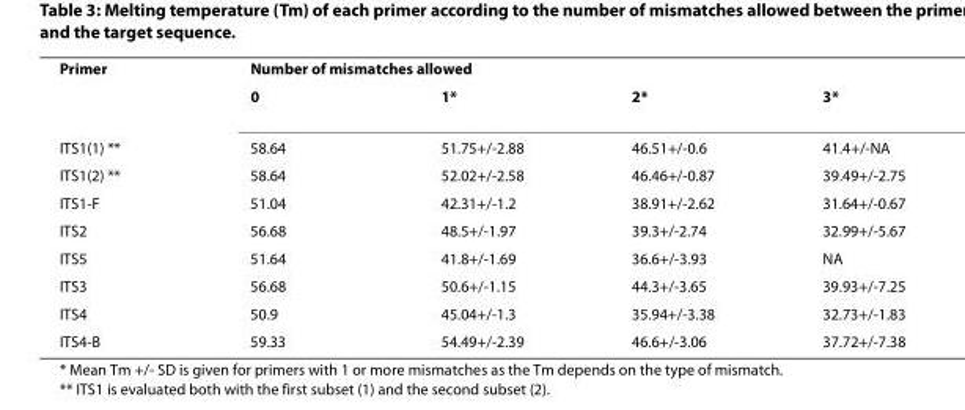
<table><tbody><tr><td rowspan="2">Primer</td><td colspan="4">Number of mismatches allowed</td></tr><tr><td>0</td><td>1*</td><td>2*</td><td>3*</td></tr><tr><td>ITS1(1) **</td><td>58.64</td><td>51.75+/-2.88</td><td>46.51+/-0.6</td><td>41.4+/-NA</td></tr><tr><td>ITS1(2) **</td><td>58.64</td><td>52.02+/-2.58</td><td>46.46+/-0.87</td><td>39.49+/-2.75</td></tr><tr><td>ITS1-F</td><td>51.04</td><td>42.31+/-1.2</td><td>38.91+/-2.62</td><td>31.64+/-0.67</td></tr><tr><td>ITS2</td><td>56.68</td><td>48.5+/-1.97</td><td>39.3+/-2.74</td><td>32.99+/-5.67</td></tr><tr><td>ITS5</td><td>51.64</td><td>41.8+/-1.69</td><td>36.6+/-3.93</td><td>NA</td></tr><tr><td>ITS3</td><td>56.68</td><td>50.6+/-1.15</td><td>44.3+/-3.65</td><td>39.93+/-7.25</td></tr><tr><td>ITS4</td><td>50.9</td><td>45.04+/-1.3</td><td>35.94+/-3.38</td><td>32.73+/-1.83</td></tr><tr><td>ITS4-B</td><td>59.33</td><td>54.49+/-2.39</td><td>46.6+/-3.06</td><td>37.72+/-7.38</td></tr></tbody></table>